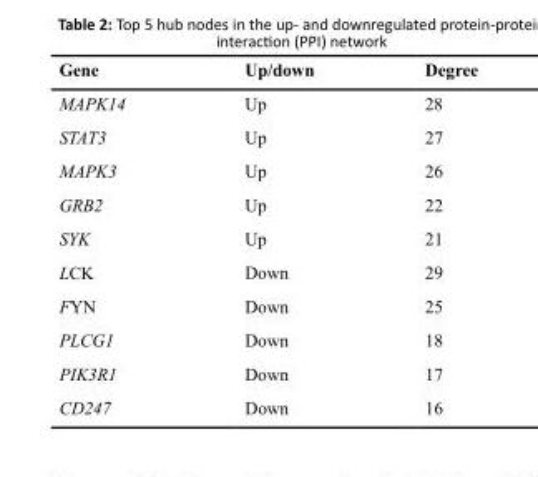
<table><thead><tr><td>Gene</td><td>Up/down</td><td>Degree</td></tr></thead><tbody><tr><td>MAPK14</td><td>Up</td><td>28</td></tr><tr><td>STAT3</td><td>Up</td><td>27</td></tr><tr><td>MAPK3</td><td>Up</td><td>26</td></tr><tr><td>GRB2</td><td>Up</td><td>22</td></tr><tr><td>SYK</td><td>Up</td><td>21</td></tr><tr><td>LCK</td><td>Down</td><td>29</td></tr><tr><td>FYN</td><td>Down</td><td>25</td></tr><tr><td>PLCG1</td><td>Down</td><td>18</td></tr><tr><td>PIK3R1</td><td>Down</td><td>17</td></tr><tr><td>CD247</td><td>Down</td><td>16</td></tr></tbody></table>